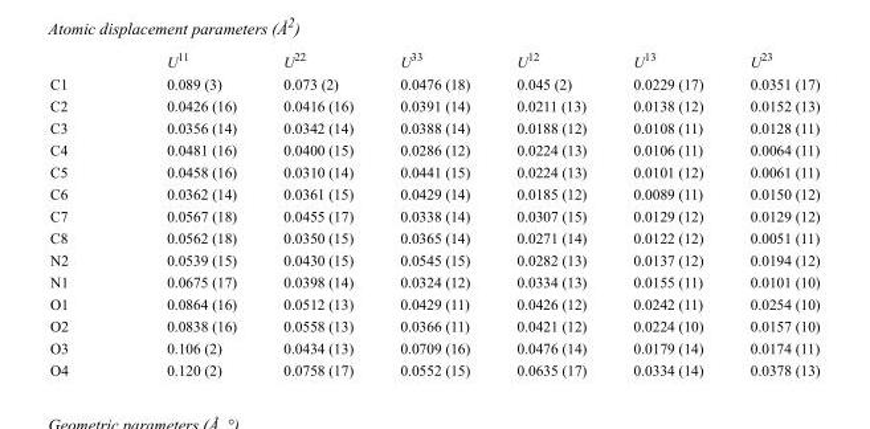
<table><thead><tr><td></td><td>U<sup>11</sup></td><td>U<sup>22</sup></td><td>U<sup>33</sup></td><td>U<sup>12</sup></td><td>U<sup>13</sup></td><td>U<sup>23</sup></td></tr></thead><tbody><tr><td>C1</td><td>0.089 (3)</td><td>0.073 (2)</td><td>0.0476 (18)</td><td>0.045 (2)</td><td>0.0229 (17)</td><td>0.0351 (17)</td></tr><tr><td>C2</td><td>0.0426 (16)</td><td>0.0416 (16)</td><td>0.0391 (14)</td><td>0.0211 (13)</td><td>0.0138 (12)</td><td>0.0152 (13)</td></tr><tr><td>C3</td><td>0.0356 (14)</td><td>0.0342 (14)</td><td>0.0388 (14)</td><td>0.0188 (12)</td><td>0.0108 (11)</td><td>0.0128 (11)</td></tr><tr><td>C4</td><td>0.0481 (16)</td><td>0.0400 (15)</td><td>0.0286 (12)</td><td>0.0224 (13)</td><td>0.0106 (11)</td><td>0.0064 (11)</td></tr><tr><td>C5</td><td>0.0458 (16)</td><td>0.0310 (14)</td><td>0.0441 (15)</td><td>0.0224 (13)</td><td>0.0101 (12)</td><td>0.0061 (11)</td></tr><tr><td>C6</td><td>0.0362 (14)</td><td>0.0361 (15)</td><td>0.0429 (14)</td><td>0.0185 (12)</td><td>0.0089 (11)</td><td>0.0150 (12)</td></tr><tr><td>C7</td><td>0.0567 (18)</td><td>0.0455 (17)</td><td>0.0338 (14)</td><td>0.0307 (15)</td><td>0.0129 (12)</td><td>0.0129 (12)</td></tr><tr><td>C8</td><td>0.0562 (18)</td><td>0.0350 (15)</td><td>0.0365 (14)</td><td>0.0271 (14)</td><td>0.0122 (12)</td><td>0.0051 (11)</td></tr><tr><td>N2</td><td>0.0539 (15)</td><td>0.0430 (15)</td><td>0.0545 (15)</td><td>0.0282 (13)</td><td>0.0137 (12)</td><td>0.0194 (12)</td></tr><tr><td>N1</td><td>0.0675 (17)</td><td>0.0398 (14)</td><td>0.0324 (12)</td><td>0.0334 (13)</td><td>0.0155 (11)</td><td>0.0101 (10)</td></tr><tr><td>O1</td><td>0.0864 (16)</td><td>0.0512 (13)</td><td>0.0429 (11)</td><td>0.0426 (12)</td><td>0.0242 (11)</td><td>0.0254 (10)</td></tr><tr><td>O2</td><td>0.0838 (16)</td><td>0.0558 (13)</td><td>0.0366 (11)</td><td>0.0421 (12)</td><td>0.0224 (10)</td><td>0.0157 (10)</td></tr><tr><td>O3</td><td>0.106 (2)</td><td>0.0434 (13)</td><td>0.0709 (16)</td><td>0.0476 (14)</td><td>0.0179 (14)</td><td>0.0174 (11)</td></tr><tr><td>O4</td><td>0.120 (2)</td><td>0.0758 (17)</td><td>0.0552 (15)</td><td>0.0635 (17)</td><td>0.0334 (14)</td><td>0.0378 (13)</td></tr></tbody></table>